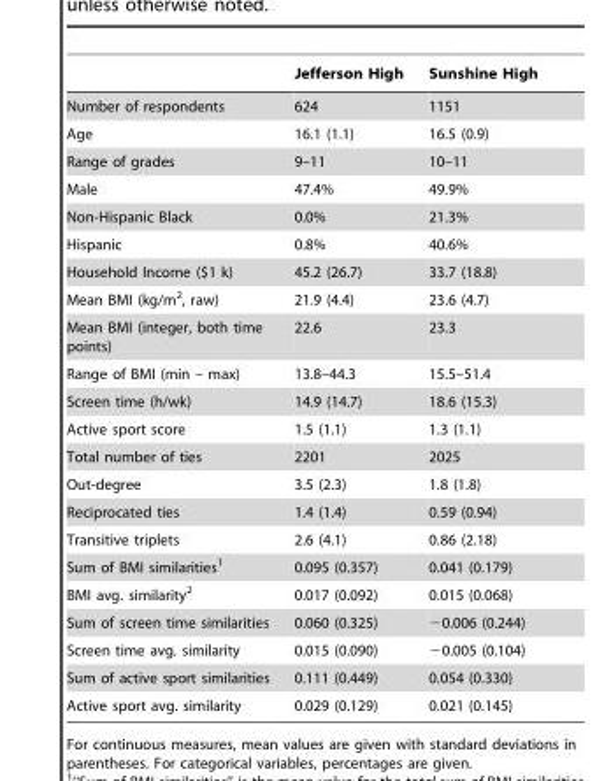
<table><thead><tr><td></td><td>Jefferson High</td><td>Sunshine High</td></tr></thead><tbody><tr><td>Number of respondents</td><td>624</td><td>1151</td></tr><tr><td>Age</td><td>16.1 (1.1)</td><td>16.5 (0.9)</td></tr><tr><td>Range of grades</td><td>9–11</td><td>10–11</td></tr><tr><td>Male</td><td>47.4%</td><td>49.9%</td></tr><tr><td>Non-Hispanic Black</td><td>0.0%</td><td>21.3%</td></tr><tr><td>Hispanic</td><td>0.8%</td><td>40.6%</td></tr><tr><td>Household Income ($1 k)</td><td>45.2 (26.7)</td><td>33.7 (18.8)</td></tr><tr><td>Mean BMI (kg/m<sup>2</sup>, raw)</td><td>21.9 (4.4)</td><td>23.6 (4.7)</td></tr><tr><td>Mean BMI (integer, both time points)</td><td>22.6</td><td>23.3</td></tr><tr><td>Range of BMI (min – max)</td><td>13.8–44.3</td><td>15.5–51.4</td></tr><tr><td>Screen time (h/wk)</td><td>14.9 (14.7)</td><td>18.6 (15.3)</td></tr><tr><td>Active sport score</td><td>1.5 (1.1)</td><td>1.3 (1.1)</td></tr><tr><td>Total number of ties</td><td>2201</td><td>2025</td></tr><tr><td>Out-degree</td><td>3.5 (2.3)</td><td>1.8 (1.8)</td></tr><tr><td>Reciprocated ties</td><td>1.4 (1.4)</td><td>0.59 (0.94)</td></tr><tr><td>Transitive triplets</td><td>2.6 (4.1)</td><td>0.86 (2.18)</td></tr><tr><td>Sum of BMI similarities<sup>1</sup></td><td>0.095 (0.357)</td><td>0.041 (0.179)</td></tr><tr><td>BMI avg. similarity<sup>2</sup></td><td>0.017 (0.092)</td><td>0.015 (0.068)</td></tr><tr><td>Sum of screen time similarities</td><td>0.060 (0.325)</td><td>−0.006 (0.244)</td></tr><tr><td>Screen time avg. similarity</td><td>0.015 (0.090)</td><td>−0.005 (0.104)</td></tr><tr><td>Sum of active sport similarities</td><td>0.111 (0.449)</td><td>0.054 (0.330)</td></tr><tr><td>Active sport avg. similarity</td><td>0.029 (0.129)</td><td>0.021 (0.145)</td></tr></tbody></table>